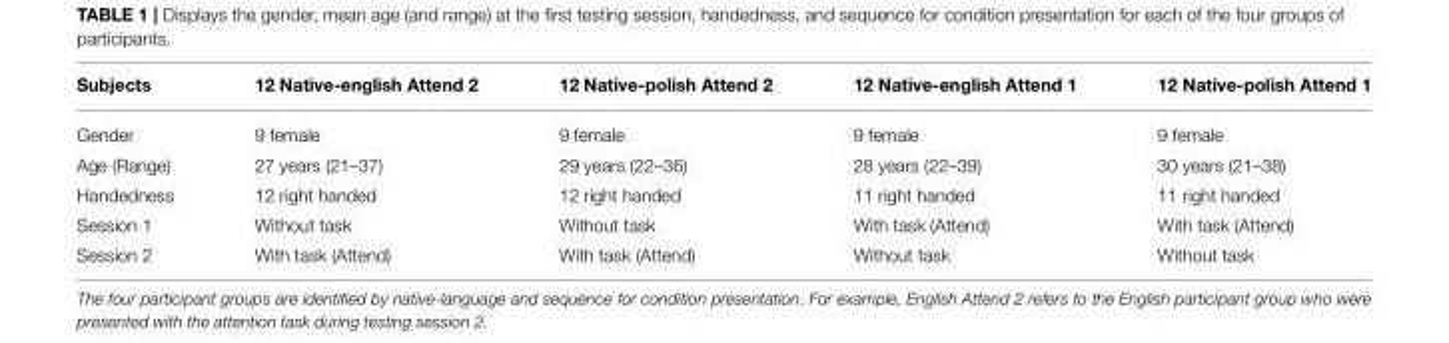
<table><thead><tr><td>Subjects</td><td>12 Native-english Attend 2</td><td>12 Native-polish Attend 2</td><td>12 Native-english Attend 1</td><td>12 Native-polish Attend 1</td></tr></thead><tbody><tr><td>Gender</td><td>9 female</td><td>9 female</td><td>9 female</td><td>9 female</td></tr><tr><td>Age (Range)</td><td>27 years (21–37)</td><td>29 years (22–36)</td><td>28 years (22–39)</td><td>30 years (21–38)</td></tr><tr><td>Handedness</td><td>12 right handed</td><td>12 right handed</td><td>11 right handed</td><td>11 right handed</td></tr><tr><td>Session 1</td><td>Without task</td><td>Without task</td><td>With task (Attend)</td><td>With task (Attend)</td></tr><tr><td>Session 2</td><td>With task (Attend)</td><td>With task (Attend)</td><td>Without task</td><td>Without task</td></tr></tbody></table>